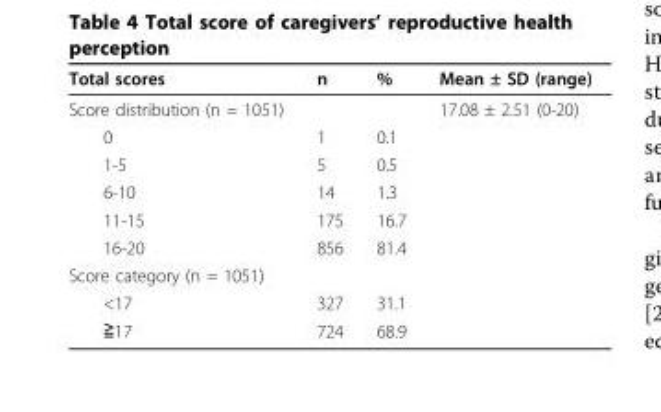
<table><thead><tr><td>Total scores</td><td>n</td><td>%</td><td>Mean ± SD (range)</td></tr></thead><tbody><tr><td>Score distribution (n = 1051)</td><td></td><td></td><td>17.08 ± 2.51 (0-20)</td></tr><tr><td>0</td><td>1</td><td>0.1</td><td></td></tr><tr><td>1-5</td><td>5</td><td>0.5</td><td></td></tr><tr><td>6-10</td><td>14</td><td>1.3</td><td></td></tr><tr><td>11-15</td><td>175</td><td>16.7</td><td></td></tr><tr><td>16-20</td><td>856</td><td>81.4</td><td></td></tr><tr><td colspan="4">Score category (n = 1051)</td></tr><tr><td>&lt;17</td><td>327</td><td>31.1</td><td></td></tr><tr><td>≧17</td><td>724</td><td>68.9</td><td></td></tr></tbody></table>